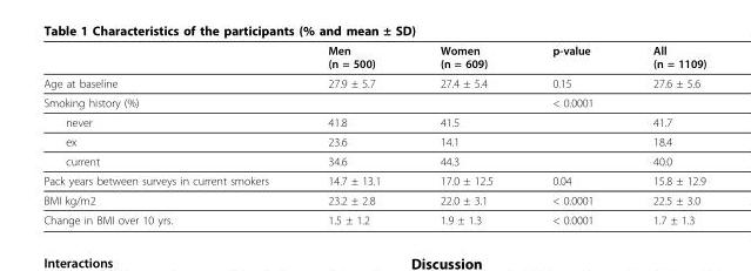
<table><thead><tr><td></td><td>Men (n = 500)</td><td>Women (n = 609)</td><td>p-value</td><td>All (n = 1109)</td></tr></thead><tbody><tr><td>Age at baseline</td><td>27.9 ± 5.7</td><td>27.4 ± 5.4</td><td>0.15</td><td>27.6 ± 5.6</td></tr><tr><td>Smoking history (%)</td><td></td><td></td><td>&lt; 0.0001</td><td></td></tr><tr><td>never</td><td>41.8</td><td>41.5</td><td></td><td>41.7</td></tr><tr><td>ex</td><td>23.6</td><td>14.1</td><td></td><td>18.4</td></tr><tr><td>current</td><td>34.6</td><td>44.3</td><td></td><td>40.0</td></tr><tr><td>Pack years between surveys in current smokers</td><td>14.7 ± 13.1</td><td>17.0 ± 12.5</td><td>0.04</td><td>15.8 ± 12.9</td></tr><tr><td>BMI kg/m2</td><td>23.2 ± 2.8</td><td>22.0 ± 3.1</td><td>&lt; 0.0001</td><td>22.5 ± 3.0</td></tr><tr><td>Change in BMI over 10 yrs.</td><td>1.5 ± 1.2</td><td>1.9 ± 1.3</td><td>&lt; 0.0001</td><td>1.7 ± 1.3</td></tr></tbody></table>